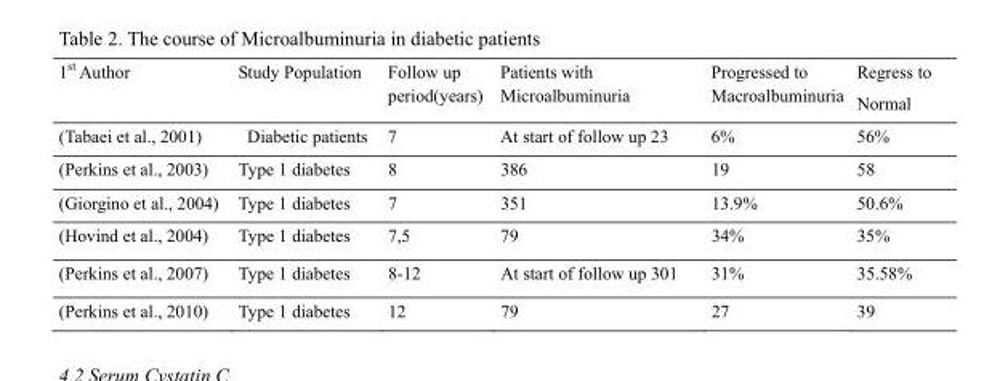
<table><thead><tr><td>1<sup>st</sup> Author</td><td>Study Population</td><td>Follow up period(years)</td><td>Patients with Microalbuminuria</td><td>Progressed to Macroalbuminuria</td><td>Regress to Normal</td></tr></thead><tbody><tr><td>(Tabaei et al., 2001)</td><td>Diabetic patients</td><td>7</td><td>At start of follow up 23</td><td>6%</td><td>56%</td></tr><tr><td>(Perkins et al., 2003)</td><td>Type 1 diabetes</td><td>8</td><td>386</td><td>19</td><td>58</td></tr><tr><td>(Giorgino et al., 2004)</td><td>Type 1 diabetes</td><td>7</td><td>351</td><td>13.9%</td><td>50.6%</td></tr><tr><td>(Hovind et al., 2004)</td><td>Type 1 diabetes</td><td>7,5</td><td>79</td><td>34%</td><td>35%</td></tr><tr><td>(Perkins et al., 2007)</td><td>Type 1 diabetes</td><td>8-12</td><td>At start of follow up 301</td><td>31%</td><td>35.58%</td></tr><tr><td>(Perkins et al., 2010)</td><td>Type 1 diabetes</td><td>12</td><td>79</td><td>27</td><td>39</td></tr></tbody></table>